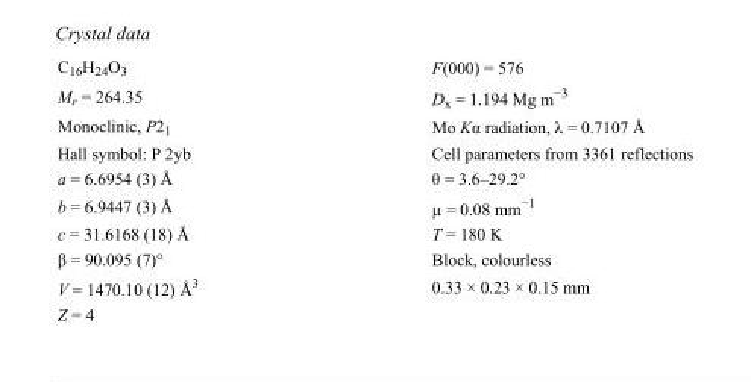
<table><tbody><tr><td>C<sub>16</sub>H<sub>24</sub>O<sub>3</sub></td><td>F(000) = 576</td></tr><tr><td>M<sub>r</sub> = 264.35</td><td>D<sub>x</sub> = 1.194 Mg m<sup>−3</sup></td></tr><tr><td>Monoclinic, P2<sub>1</sub></td><td>Mo Kα radiation, λ = 0.7107 Å</td></tr><tr><td>Hall symbol: P 2yb</td><td>Cell parameters from 3361 reflections</td></tr><tr><td>a = 6.6954 (3) Å</td><td>θ = 3.6–29.2°</td></tr><tr><td>b = 6.9447 (3) Å</td><td>µ = 0.08 mm<sup>−1</sup></td></tr><tr><td>c = 31.6168 (18) Å</td><td>T = 180 K</td></tr><tr><td>β = 90.095 (7)°</td><td>Block, colourless</td></tr><tr><td>V = 1470.10 (12) Å<sup>3</sup></td><td>0.33 × 0.23 × 0.15 mm</td></tr><tr><td>Z = 4</td><td></td></tr></tbody></table>